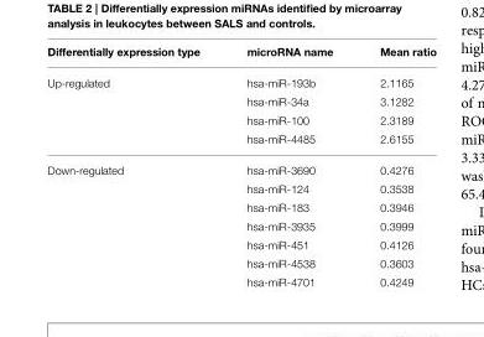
<table><thead><tr><td>Differentially expression type</td><td>microRNA name</td><td>Mean ratio</td></tr></thead><tbody><tr><td rowspan="4">Up-regulated</td><td>hsa-miR-193b</td><td>2.1165</td></tr><tr><td>hsa-miR-34a</td><td>3.1282</td></tr><tr><td>hsa-miR-100</td><td>2.3189</td></tr><tr><td>hsa-miR-4485</td><td>2.6155</td></tr><tr><td rowspan="7">Down-regulated</td><td>hsa-miR-3690</td><td>0.4276</td></tr><tr><td>hsa-miR-124</td><td>0.3538</td></tr><tr><td>hsa-miR-183</td><td>0.3946</td></tr><tr><td>hsa-miR-3935</td><td>0.3999</td></tr><tr><td>hsa-miR-451</td><td>0.4126</td></tr><tr><td>hsa-miR-4538</td><td>0.3603</td></tr><tr><td>hsa-miR-4701</td><td>0.4249</td></tr></tbody></table>